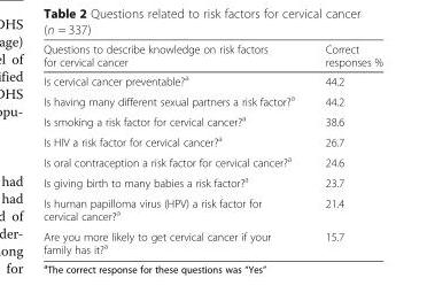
<table><thead><tr><td>Questions to describe knowledge on risk factors for cervical cancer</td><td>Correct responses %</td></tr></thead><tbody><tr><td>Is cervical cancer preventable?<sup>a</sup></td><td>44.2</td></tr><tr><td>Is having many different sexual partners a risk factor?<sup>a</sup></td><td>44.2</td></tr><tr><td>Is smoking a risk factor for cervical cancer?<sup>a</sup></td><td>38.6</td></tr><tr><td>Is HIV a risk factor for cervical cancer?<sup>a</sup></td><td>26.7</td></tr><tr><td>Is oral contraception a risk factor for cervical cancer?<sup>a</sup></td><td>24.6</td></tr><tr><td>Is giving birth to many babies a risk factor?<sup>a</sup></td><td>23.7</td></tr><tr><td>Is human papilloma virus (HPV) a risk factor for cervical cancer?<sup>a</sup></td><td>21.4</td></tr><tr><td>Are you more likely to get cervical cancer if your family has it?<sup>a</sup></td><td>15.7</td></tr></tbody></table>